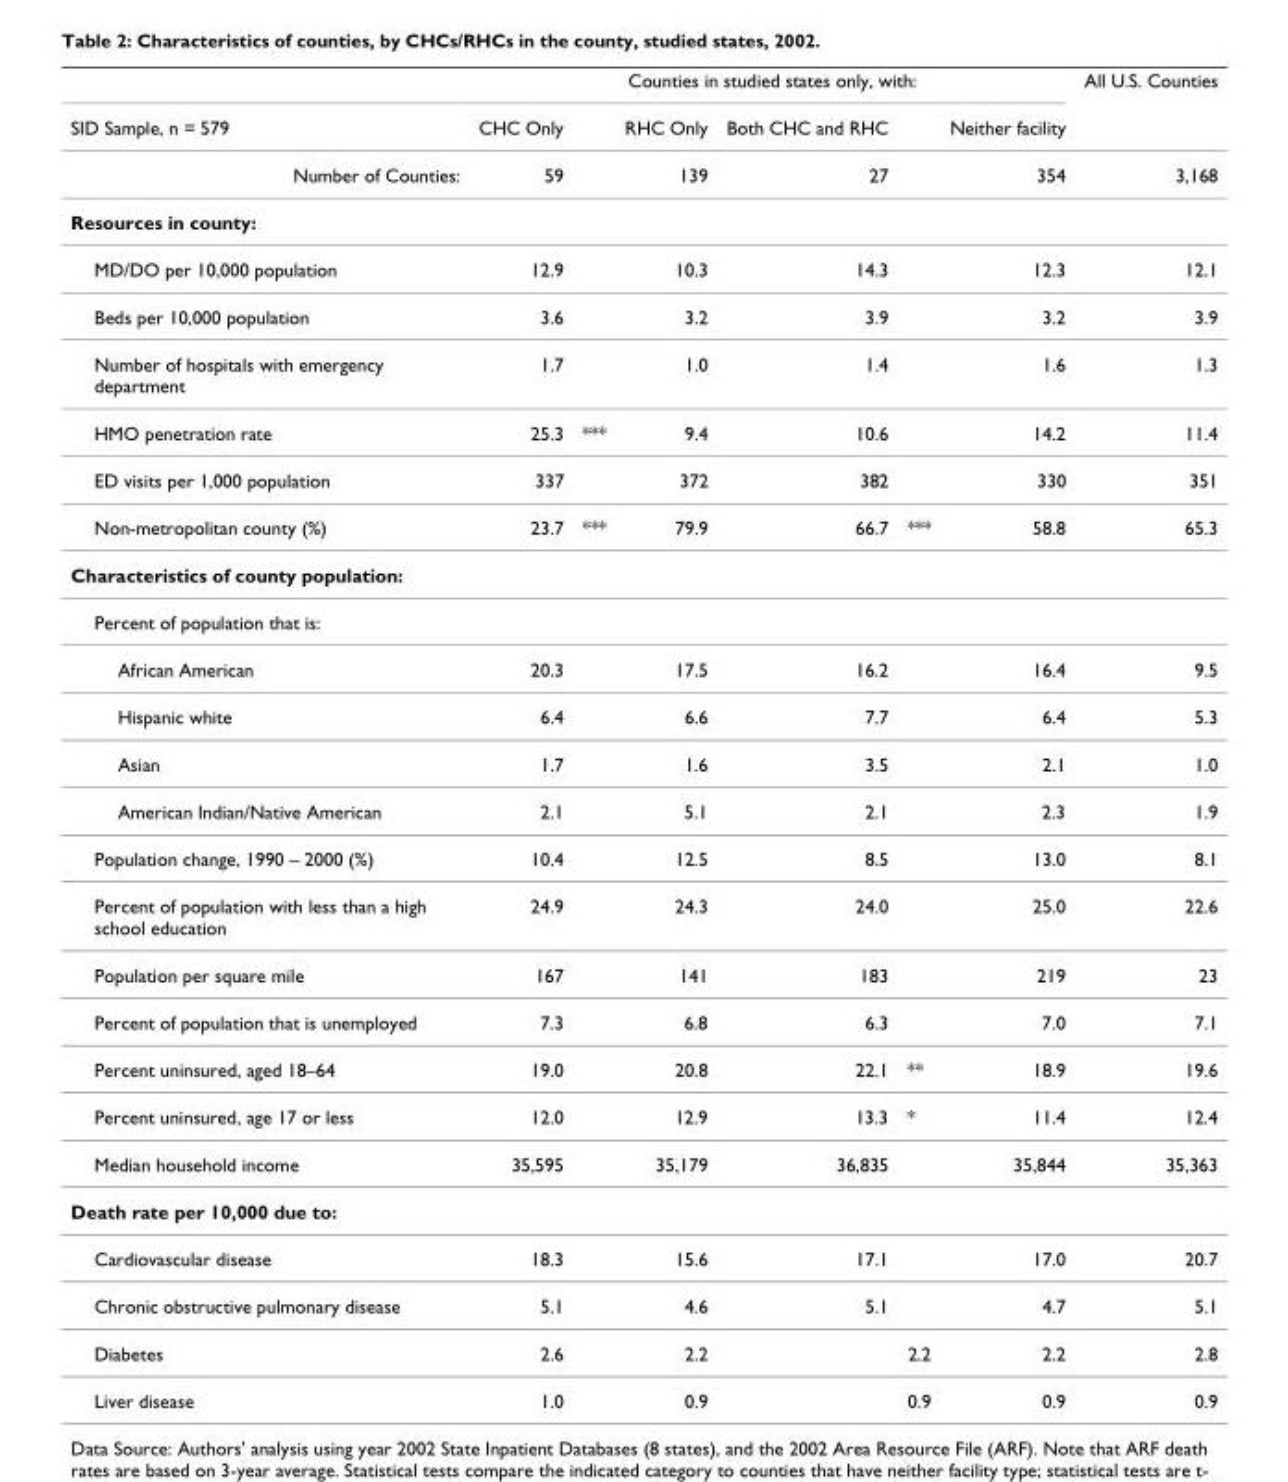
<table><thead><tr><td rowspan="2">SID Sample, n = 579</td><td colspan="6">Counties in studied states only, with:</td><td rowspan="2">All U.S. Counties</td></tr><tr><td>CHC Only</td><td></td><td>RHC Only</td><td>Both CHC and RHC</td><td></td><td>Neither facility</td></tr></thead><tbody><tr><td>Number of Counties:</td><td>59</td><td></td><td>139</td><td>27</td><td></td><td>354</td><td>3,168</td></tr><tr><td colspan="8">Resources in county:</td></tr><tr><td>MD/DO per 10,000 population</td><td>12.9</td><td></td><td>10.3</td><td>14.3</td><td></td><td>12.3</td><td>12.1</td></tr><tr><td>Beds per 10,000 population</td><td>3.6</td><td></td><td>3.2</td><td>3.9</td><td></td><td>3.2</td><td>3.9</td></tr><tr><td>Number of hospitals with emergency department</td><td>1.7</td><td></td><td>1.0</td><td>1.4</td><td></td><td>1.6</td><td>1.3</td></tr><tr><td>HMO penetration rate</td><td>25.3</td><td>***</td><td>9.4</td><td>10.6</td><td></td><td>14.2</td><td>11.4</td></tr><tr><td>ED visits per 1,000 population</td><td>337</td><td></td><td>372</td><td>382</td><td></td><td>330</td><td>351</td></tr><tr><td>Non-metropolitan county (%)</td><td>23.7</td><td>***</td><td>79.9</td><td>66.7</td><td>***</td><td>58.8</td><td>65.3</td></tr><tr><td colspan="8">Characteristics of county population:</td></tr><tr><td colspan="8">Percent of population that is:</td></tr><tr><td>African American</td><td>20.3</td><td></td><td>17.5</td><td>16.2</td><td></td><td>16.4</td><td>9.5</td></tr><tr><td>Hispanic white</td><td>6.4</td><td></td><td>6.6</td><td>7.7</td><td></td><td>6.4</td><td>5.3</td></tr><tr><td>Asian</td><td>1.7</td><td></td><td>1.6</td><td>3.5</td><td></td><td>2.1</td><td>1.0</td></tr><tr><td>American Indian/Native American</td><td>2.1</td><td></td><td>5.1</td><td>2.1</td><td></td><td>2.3</td><td>1.9</td></tr><tr><td>Population change, 1990 – 2000 (%)</td><td>10.4</td><td></td><td>12.5</td><td>8.5</td><td></td><td>13.0</td><td>8.1</td></tr><tr><td>Percent of population with less than a high school education</td><td>24.9</td><td></td><td>24.3</td><td>24.0</td><td></td><td>25.0</td><td>22.6</td></tr><tr><td>Population per square mile</td><td>167</td><td></td><td>141</td><td>183</td><td></td><td>219</td><td>23</td></tr><tr><td>Percent of population that is unemployed</td><td>7.3</td><td></td><td>6.8</td><td>6.3</td><td></td><td>7.0</td><td>7.1</td></tr><tr><td>Percent uninsured, aged 18–64</td><td>19.0</td><td></td><td>20.8</td><td>22.1</td><td>**</td><td>18.9</td><td>19.6</td></tr><tr><td>Percent uninsured, age 17 or less</td><td>12.0</td><td></td><td>12.9</td><td>13.3</td><td>*</td><td>11.4</td><td>12.4</td></tr><tr><td>Median household income</td><td>35,595</td><td></td><td>35,179</td><td>36,835</td><td></td><td>35,844</td><td>35,363</td></tr><tr><td colspan="8">Death rate per 10,000 due to:</td></tr><tr><td>Cardiovascular disease</td><td>18.3</td><td></td><td>15.6</td><td>17.1</td><td></td><td>17.0</td><td>20.7</td></tr><tr><td>Chronic obstructive pulmonary disease</td><td>5.1</td><td></td><td>4.6</td><td>5.1</td><td></td><td>4.7</td><td>5.1</td></tr><tr><td>Diabetes</td><td>2.6</td><td></td><td>2.2</td><td></td><td>2.2</td><td>2.2</td><td>2.8</td></tr><tr><td>Liver disease</td><td>1.0</td><td></td><td>0.9</td><td></td><td>0.9</td><td>0.9</td><td>0.9</td></tr></tbody></table>